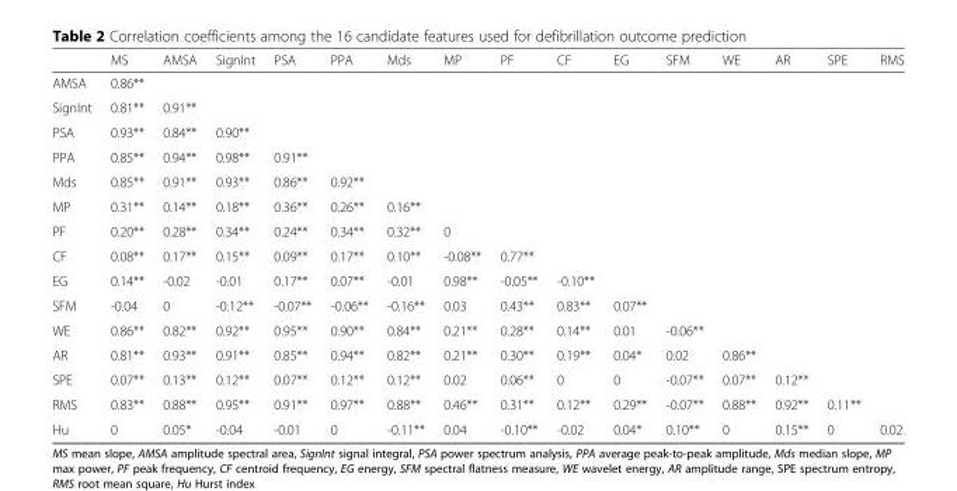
<table><thead><tr><td></td><td>MS</td><td>AMSA</td><td>SignInt</td><td>PSA</td><td>PPA</td><td>Mds</td><td>MP</td><td>PF</td><td>CF</td><td>EG</td><td>SFM</td><td>WE</td><td>AR</td><td>SPE</td><td>RMS</td></tr></thead><tbody><tr><td>AMSA</td><td>0.86**</td><td></td><td></td><td></td><td></td><td></td><td></td><td></td><td></td><td></td><td></td><td></td><td></td><td></td><td></td></tr><tr><td>SignInt</td><td>0.81**</td><td>0.91**</td><td></td><td></td><td></td><td></td><td></td><td></td><td></td><td></td><td></td><td></td><td></td><td></td><td></td></tr><tr><td>PSA</td><td>0.93**</td><td>0.84**</td><td>0.90**</td><td></td><td></td><td></td><td></td><td></td><td></td><td></td><td></td><td></td><td></td><td></td><td></td></tr><tr><td>PPA</td><td>0.85**</td><td>0.94**</td><td>0.98**</td><td>0.91**</td><td></td><td></td><td></td><td></td><td></td><td></td><td></td><td></td><td></td><td></td><td></td></tr><tr><td>Mds</td><td>0.85**</td><td>0.91**</td><td>0.93**</td><td>0.86**</td><td>0.92**</td><td></td><td></td><td></td><td></td><td></td><td></td><td></td><td></td><td></td><td></td></tr><tr><td>MP</td><td>0.31**</td><td>0.14**</td><td>0.18**</td><td>0.36**</td><td>0.26**</td><td>0.16**</td><td></td><td></td><td></td><td></td><td></td><td></td><td></td><td></td><td></td></tr><tr><td>PF</td><td>0.20**</td><td>0.28**</td><td>0.34**</td><td>0.24**</td><td>0.34**</td><td>0.32**</td><td>0</td><td></td><td></td><td></td><td></td><td></td><td></td><td></td><td></td></tr><tr><td>CF</td><td>0.08**</td><td>0.17**</td><td>0.15**</td><td>0.09**</td><td>0.17**</td><td>0.10**</td><td>-0.08**</td><td>0.77**</td><td></td><td></td><td></td><td></td><td></td><td></td><td></td></tr><tr><td>EG</td><td>0.14**</td><td>-0.02</td><td>-0.01</td><td>0.17**</td><td>0.07**</td><td>-0.01</td><td>0.98**</td><td>-0.05**</td><td>-0.10**</td><td></td><td></td><td></td><td></td><td></td><td></td></tr><tr><td>SFM</td><td>-0.04</td><td>0</td><td>-0.12**</td><td>-0.07**</td><td>-0.06**</td><td>-0.16**</td><td>0.03</td><td>0.43**</td><td>0.83**</td><td>0.07**</td><td></td><td></td><td></td><td></td><td></td></tr><tr><td>WE</td><td>0.86**</td><td>0.82**</td><td>0.92**</td><td>0.95**</td><td>0.90**</td><td>0.84**</td><td>0.21**</td><td>0.28**</td><td>0.14**</td><td>0.01</td><td>-0.06**</td><td></td><td></td><td></td><td></td></tr><tr><td>AR</td><td>0.81**</td><td>0.93**</td><td>0.91**</td><td>0.85**</td><td>0.94**</td><td>0.82**</td><td>0.21**</td><td>0.30**</td><td>0.19**</td><td>0.04*</td><td>0.02</td><td>0.86**</td><td></td><td></td><td></td></tr><tr><td>SPE</td><td>0.07**</td><td>0.13**</td><td>0.12**</td><td>0.07**</td><td>0.12**</td><td>0.12**</td><td>0.02</td><td>0.06**</td><td>0</td><td>0</td><td>-0.07**</td><td>0.07**</td><td>0.12**</td><td></td><td></td></tr><tr><td>RMS</td><td>0.83**</td><td>0.88**</td><td>0.95**</td><td>0.91**</td><td>0.97**</td><td>0.88**</td><td>0.46**</td><td>0.31**</td><td>0.12**</td><td>0.29**</td><td>-0.07**</td><td>0.88**</td><td>0.92**</td><td>0.11**</td><td></td></tr><tr><td>Hu</td><td>0</td><td>0.05*</td><td>-0.04</td><td>-0.01</td><td>0</td><td>-0.11**</td><td>0.04</td><td>-0.10**</td><td>-0.02</td><td>0.04*</td><td>0.10**</td><td>0</td><td>0.15**</td><td>0</td><td>0.02</td></tr></tbody></table>